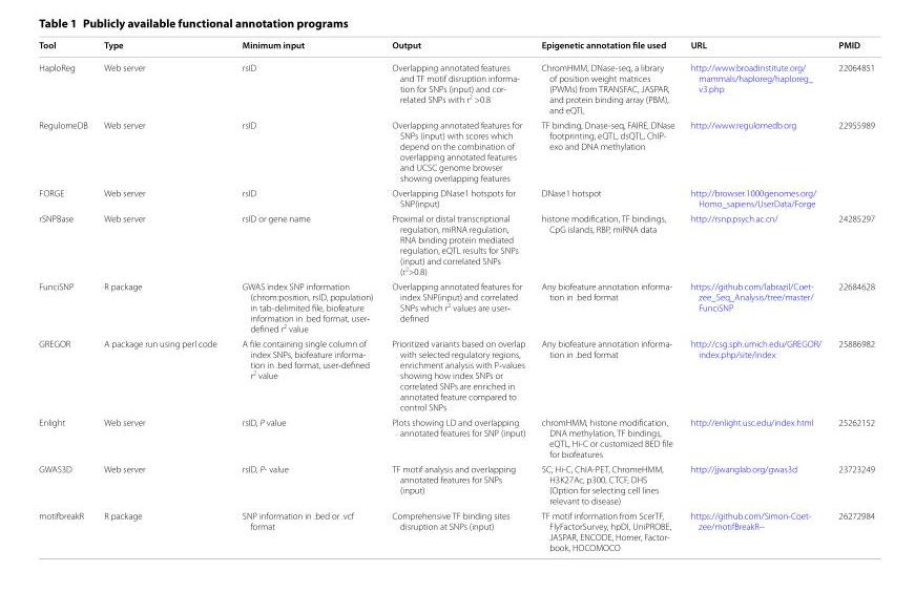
<table><thead><tr><td>Tool</td><td>Type</td><td>Minimum input</td><td>Output</td><td>Epigenetic annotation file used</td><td>URL</td><td>PMID</td></tr></thead><tbody><tr><td>HaploReg</td><td>Web server</td><td>rsID</td><td>Overlapping annotated features and TF motif disruption informa- tion for SNPs (input) and cor- related SNPs with r2 &gt;0.8</td><td>ChromHMM, DNase-seq, a library of position weight matrices (PWMs) from TRANSFAC, JASPAR, and protein binding array (PBM), and eQTL</td><td>http://www.broadinstitute.org/ mammals/haploreg/haploreg_ v3.php</td><td>22064851</td></tr><tr><td>RegulomeDB</td><td>Web server</td><td>rsID</td><td>Overlapping annotated features for SNPs (input) with scores which depend on the combination of overlapping annotated features and UCSC genome browser showing overlapping features</td><td>TF binding, Dnase-seq, FAIRE, DNase footprinting, eQTL, dsQTL, ChIP- exo and DNA methylation</td><td>http://www.regulomedb.org</td><td>22955989</td></tr><tr><td>FORGE</td><td>Web server</td><td>rsID</td><td>Overlapping DNase1 hotspots for SNP(input)</td><td>DNase1 hotspot</td><td>http://browser.1000genomes.org/ Homo_sapiens/UserData/Forge</td><td></td></tr><tr><td>rSNPBase</td><td>Web server</td><td>rsID or gene name</td><td>Proximal or distal transcriptional regulation, miRNA regulation, RNA binding protein mediated regulation, eQTL results for SNPs (input) and correlated SNPs (r<sup>2</sup>&gt;0.8)</td><td>histone modification, TF bindings, CpG islands, RBP, miRNA data</td><td>http://rsnp.psych.ac.cn/</td><td>24285297</td></tr><tr><td>FunciSNP</td><td>R package</td><td>GWAS index SNP information (chrom:position, rsID, population) in tab-delimited file, biofeature information in .bed format, user‐ defined r<sup>2</sup> value</td><td>Overlapping annotated features for index SNP(input) and correlated SNPs which r<sup>2</sup> values are user‐ defined</td><td>Any biofeature annotation informa- tion in .bed format</td><td>https://github.com/labrazil/Coet- zee_Seq_Analysis/tree/master/ FunciSNP</td><td>22684628</td></tr><tr><td>GREGOR</td><td>A package run using perl code</td><td>A file containing single column of index SNPs, biofeature informa- tion in .bed format, user‐defined r2 value</td><td>Prioritized variants based on overlap with selected regulatory regions, enrichment analysis with P‐values showing how index SNPs or correlated SNPs are enriched in annotated feature compared to control SNPs</td><td>Any biofeature annotation informa- tion in .bed format</td><td>http://csg.sph.umich.edu/GREGOR/ index.php/site/index</td><td>25886982</td></tr><tr><td>Enlight</td><td>Web server</td><td>rsID, P value</td><td>Plots showing LD and overlapping annotated features for SNP (input)</td><td>chromHMM, histone modification, DNA methylation, TF bindings, eQTL, Hi-C or customized BED file for biofeatures</td><td>http://enlight.usc.edu/index.html</td><td>25262152</td></tr><tr><td>GWAS3D</td><td>Web server</td><td>rsID, P- value</td><td>TF motif analysis and overlapping annotated features for SNPs (input)</td><td>5C, Hi-C, ChIA-PET, ChromeHMM, H3K27Ac, p300, CTCF, DHS (Option for selecting cell lines relevant to disease)</td><td>http://jjwanglab.org/gwas3d</td><td>23723249</td></tr><tr><td>motifbreakR</td><td>R package</td><td>SNP information in .bed or .vcf format</td><td>Comprehensive TF binding sites disruption at SNPs (input)</td><td>TF motif information from ScerTF, FlyFactorSurvey, hpDI, UniPROBE, JASPAR, ENCODE, Homer, Factor- book, HOCOMOCO</td><td>https://github.com/Simon-Coet- zee/motifBreakR--</td><td>26272984</td></tr></tbody></table>